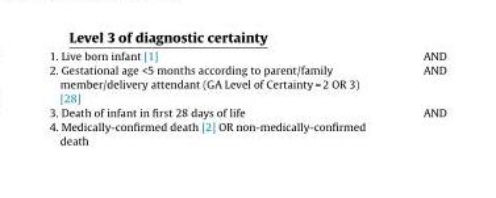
<table><tbody><tr><td>1. Live born infant [1]</td><td>AND</td></tr><tr><td>2. Gestational age &lt;5 months according to parent/family member/delivery attendant (GA Level of Certainty = 2 OR 3) [28]</td><td>AND</td></tr><tr><td>3. Death of infant in first 28 days of life</td><td>AND</td></tr><tr><td>4. Medically-confirmed death [2] OR non-medically-confirmed death</td><td></td></tr></tbody></table>